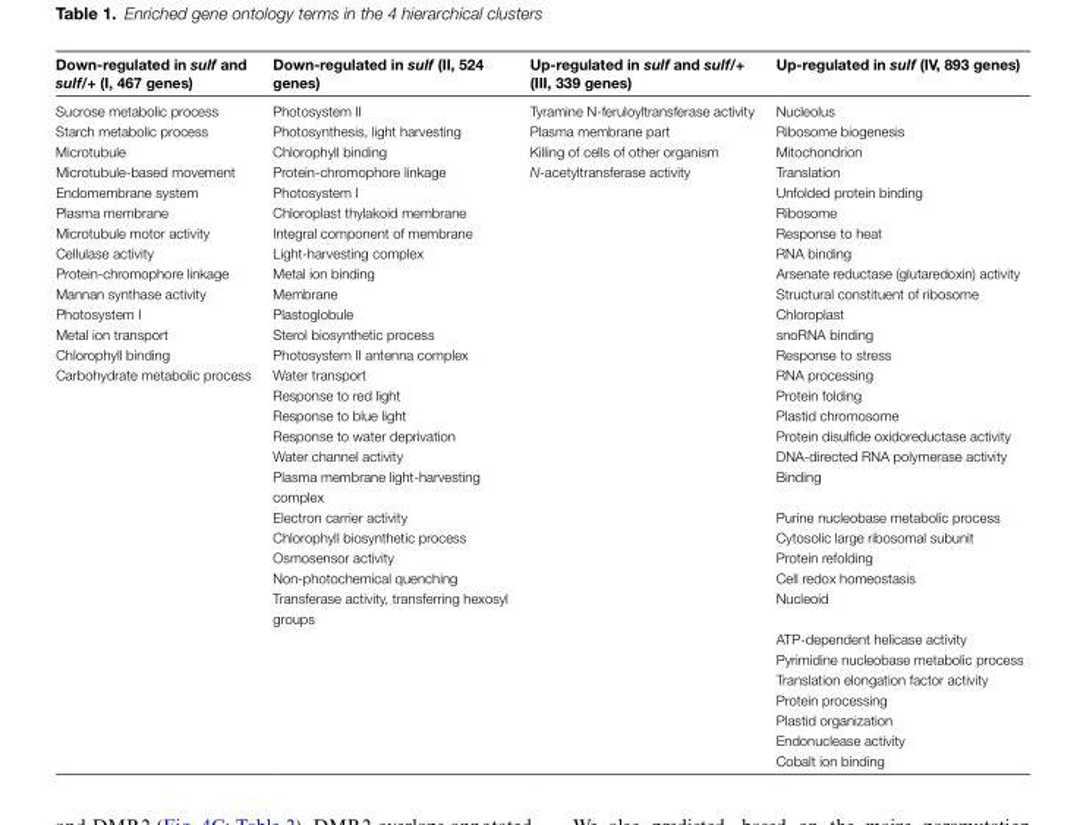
<table><thead><tr><td>Down-regulated in sulf and sulf/+ (I, 467 genes)</td><td>Down-regulated in sulf (II, 524 genes)</td><td>Up-regulated in sulf and sulf/+ (III, 339 genes)</td><td>Up-regulated in sulf (IV, 893 genes)</td></tr></thead><tbody><tr><td>Sucrose metabolic process</td><td>Photosystem II</td><td>Tyramine N-feruloyltransferase activity</td><td>Nucleolus</td></tr><tr><td>Starch metabolic process</td><td>Photosynthesis, light harvesting</td><td>Plasma membrane part</td><td>Ribosome biogenesis</td></tr><tr><td>Microtubule</td><td>Chlorophyll binding</td><td>Killing of cells of other organism</td><td>Mitochondrion</td></tr><tr><td>Microtubule-based movement</td><td>Protein-chromophore linkage</td><td>N-acetyltransferase activity</td><td>Translation</td></tr><tr><td>Endomembrane system</td><td>Photosystem I</td><td rowspan="27"></td><td>Unfolded protein binding</td></tr><tr><td>Plasma membrane</td><td>Chloroplast thylakoid membrane</td><td>Ribosome</td></tr><tr><td>Microtubule motor activity</td><td>Integral component of membrane</td><td>Response to heat</td></tr><tr><td>Cellulase activity</td><td>Light-harvesting complex</td><td>RNA binding</td></tr><tr><td>Protein-chromophore linkage</td><td>Metal ion binding</td><td>Arsenate reductase (glutaredoxin) activity</td></tr><tr><td>Mannan synthase activity</td><td>Membrane</td><td>Structural constituent of ribosome</td></tr><tr><td>Photosystem I</td><td>Plastoglobule</td><td>Chloroplast</td></tr><tr><td>Metal ion transport</td><td>Sterol biosynthetic process</td><td>snoRNA binding</td></tr><tr><td>Chlorophyll binding</td><td>Photosystem II antenna complex</td><td>Response to stress</td></tr><tr><td rowspan="18">Carbohydrate metabolic process</td><td>Water transport</td><td>RNA processing</td></tr><tr><td>Response to red light</td><td>Protein folding</td></tr><tr><td>Response to blue light</td><td>Plastid chromosome</td></tr><tr><td>Response to water deprivation</td><td>Protein disulfide oxidoreductase activity</td></tr><tr><td>Water channel activity</td><td>DNA-directed RNA polymerase activity</td></tr><tr><td>Plasma membrane light-harvesting complex</td><td>Binding</td></tr><tr><td>Electron carrier activity</td><td>Purine nucleobase metabolic process</td></tr><tr><td>Chlorophyll biosynthetic process</td><td>Cytosolic large ribosomal subunit</td></tr><tr><td>Osmosensor activity</td><td>Protein refolding</td></tr><tr><td>Non-photochemical quenching</td><td>Cell redox homeostasis</td></tr><tr><td>Transferase activity, transferring hexosyl groups</td><td>Nucleoid</td></tr><tr><td rowspan="7"></td><td>ATP-dependent helicase activity</td></tr><tr><td>Pyrimidine nucleobase metabolic process</td></tr><tr><td>Translation elongation factor activity</td></tr><tr><td>Protein processing</td></tr><tr><td>Plastid organization</td></tr><tr><td>Endonuclease activity</td></tr><tr><td>Cobalt ion binding</td></tr></tbody></table>